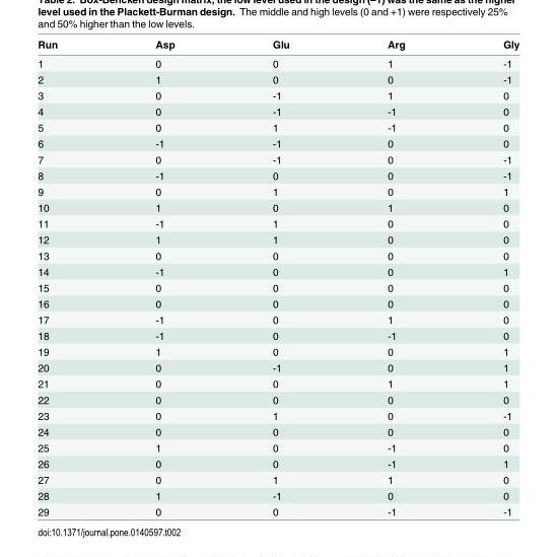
<table><thead><tr><td>Run</td><td>Asp</td><td>Glu</td><td>Arg</td><td>Gly</td></tr></thead><tbody><tr><td>1</td><td>0</td><td>0</td><td>1</td><td>-1</td></tr><tr><td>2</td><td>1</td><td>0</td><td>0</td><td>-1</td></tr><tr><td>3</td><td>0</td><td>-1</td><td>1</td><td>0</td></tr><tr><td>4</td><td>0</td><td>-1</td><td>-1</td><td>0</td></tr><tr><td>5</td><td>0</td><td>1</td><td>-1</td><td>0</td></tr><tr><td>6</td><td>-1</td><td>-1</td><td>0</td><td>0</td></tr><tr><td>7</td><td>0</td><td>-1</td><td>0</td><td>-1</td></tr><tr><td>8</td><td>-1</td><td>0</td><td>0</td><td>-1</td></tr><tr><td>9</td><td>0</td><td>1</td><td>0</td><td>1</td></tr><tr><td>10</td><td>1</td><td>0</td><td>1</td><td>0</td></tr><tr><td>11</td><td>-1</td><td>1</td><td>0</td><td>0</td></tr><tr><td>12</td><td>1</td><td>1</td><td>0</td><td>0</td></tr><tr><td>13</td><td>0</td><td>0</td><td>0</td><td>0</td></tr><tr><td>14</td><td>-1</td><td>0</td><td>0</td><td>1</td></tr><tr><td>15</td><td>0</td><td>0</td><td>0</td><td>0</td></tr><tr><td>16</td><td>0</td><td>0</td><td>0</td><td>0</td></tr><tr><td>17</td><td>-1</td><td>0</td><td>1</td><td>0</td></tr><tr><td>18</td><td>-1</td><td>0</td><td>-1</td><td>0</td></tr><tr><td>19</td><td>1</td><td>0</td><td>0</td><td>1</td></tr><tr><td>20</td><td>0</td><td>-1</td><td>0</td><td>1</td></tr><tr><td>21</td><td>0</td><td>0</td><td>1</td><td>1</td></tr><tr><td>22</td><td>0</td><td>0</td><td>0</td><td>0</td></tr><tr><td>23</td><td>0</td><td>1</td><td>0</td><td>-1</td></tr><tr><td>24</td><td>0</td><td>0</td><td>0</td><td>0</td></tr><tr><td>25</td><td>1</td><td>0</td><td>-1</td><td>0</td></tr><tr><td>26</td><td>0</td><td>0</td><td>-1</td><td>1</td></tr><tr><td>27</td><td>0</td><td>1</td><td>1</td><td>0</td></tr><tr><td>28</td><td>1</td><td>-1</td><td>0</td><td>0</td></tr><tr><td>29</td><td>0</td><td>0</td><td>-1</td><td>-1</td></tr></tbody></table>